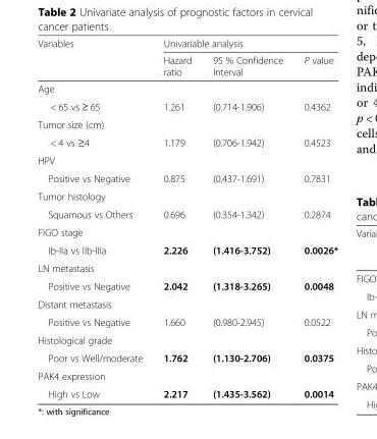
<table><thead><tr><td rowspan="2">Variables</td><td colspan="3">Univariable analysis</td></tr><tr><td>Hazard ratio</td><td>95 % Confidence Interval</td><td>P value</td></tr></thead><tbody><tr><td colspan="4">Age</td></tr><tr><td>&lt; 65 vs ≥ 65</td><td>1.261</td><td>(0.714-1.906)</td><td>0.4362</td></tr><tr><td colspan="4">Tumor size (cm)</td></tr><tr><td>&lt; 4 vs ≥4</td><td>1.179</td><td>(0.706-1.942)</td><td>0.4523</td></tr><tr><td colspan="4">HPV</td></tr><tr><td>Positive vs Negative</td><td>0.875</td><td>(0.437-1.691)</td><td>0.7831</td></tr><tr><td colspan="4">Tumor histology</td></tr><tr><td>Squamous vs Others</td><td>0.696</td><td>(0.354-1.342)</td><td>0.2874</td></tr><tr><td colspan="4">FIGO stage</td></tr><tr><td>Ib-IIa vs IIb-IIIa</td><td>2.226</td><td>(1.416-3.752)</td><td>0.0026*</td></tr><tr><td colspan="4">LN metastasis</td></tr><tr><td>Positive vs Negative</td><td>2.042</td><td>(1.318-3.265)</td><td>0.0048</td></tr><tr><td colspan="4">Distant metastasis</td></tr><tr><td>Positive vs Negative</td><td>1.660</td><td>(0.980-2.945)</td><td>0.0522</td></tr><tr><td colspan="4">Histological grade</td></tr><tr><td>Poor vs Well/moderate</td><td>1.762</td><td>(1.130-2.706)</td><td>0.0375</td></tr><tr><td colspan="4">PAK4 expression</td></tr><tr><td>High vs Low</td><td>2.217</td><td>(1.435-3.562)</td><td>0.0014</td></tr></tbody></table>